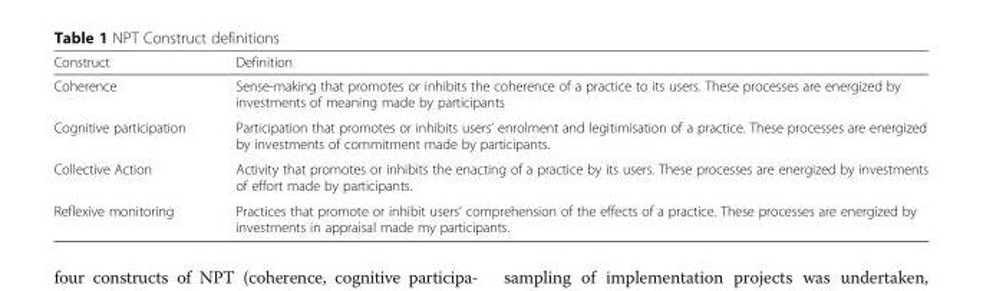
<table><thead><tr><td>Construct</td><td>Definition</td></tr></thead><tbody><tr><td>Coherence</td><td>Sense-making that promotes or inhibits the coherence of a practice to its users. These processes are energized by investments of meaning made by participants</td></tr><tr><td>Cognitive participation</td><td>Participation that promotes or inhibits users’ enrolment and legitimisation of a practice. These processes are energized by investments of commitment made by participants.</td></tr><tr><td>Collective Action</td><td>Activity that promotes or inhibits the enacting of a practice by its users. These processes are energized by investments of effort made by participants.</td></tr><tr><td>Reflexive monitoring</td><td>Practices that promote or inhibit users’ comprehension of the effects of a practice. These processes are energized by investments in appraisal made my participants.</td></tr></tbody></table>